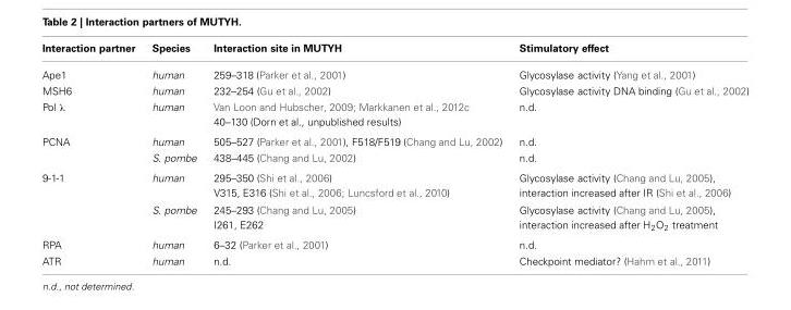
<table><thead><tr><td>Interaction partner</td><td>Species</td><td>Interaction site in MUTYH</td><td>Stimulatory effect</td></tr></thead><tbody><tr><td>Ape1</td><td>human</td><td>259–318 (Parker et al., 2001)</td><td>Glycosylase activity (Yang et al., 2001)</td></tr><tr><td>MSH6</td><td>human</td><td>232–254 (Gu et al., 2002)</td><td>Glycosylase activity DNA binding (Gu et al., 2002)</td></tr><tr><td>Pol λ</td><td>human</td><td>Van Loon and Hubscher, 2009; Markkanen et al., 2012c 40–130 (Dorn et al., unpublished results)</td><td>n.d.</td></tr><tr><td rowspan="2">PCNA</td><td>human</td><td>505–527 (Parker et al., 2001), F518/F519 (Chang and Lu, 2002)</td><td>n.d.</td></tr><tr><td>S. pombe</td><td>438–445 (Chang and Lu, 2002)</td><td>n.d.</td></tr><tr><td rowspan="2">9-1-1</td><td>human</td><td>295–350 (Shi et al., 2006) V315, E316 (Shi et al., 2006; Luncsford et al., 2010)</td><td>Glycosylase activity (Chang and Lu, 2005), interaction increased after IR (Shi et al., 2006)</td></tr><tr><td>S. pombe</td><td>245–293 (Chang and Lu, 2005) I261, E262</td><td>Glycosylase activity (Chang and Lu, 2005), interaction increased after H<sub>2</sub>O<sub>2</sub> treatment</td></tr><tr><td>RPA</td><td>human</td><td>6–32 (Parker et al., 2001)</td><td>n.d.</td></tr><tr><td>ATR</td><td>human</td><td>n.d.</td><td>Checkpoint mediator? (Hahm et al., 2011)</td></tr></tbody></table>